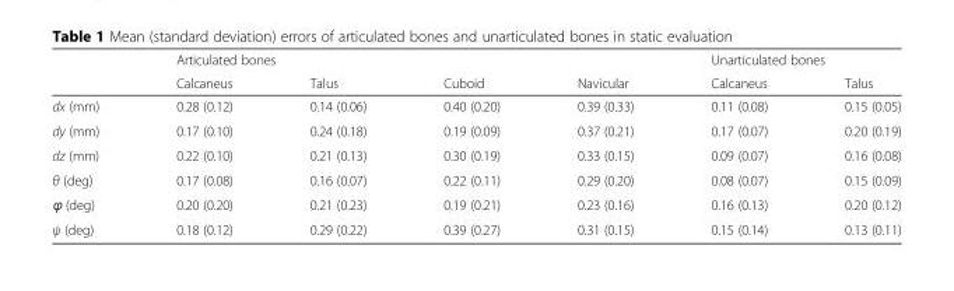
<table><thead><tr><td rowspan="2"></td><td colspan="4">Articulated bones</td><td colspan="2">Unarticulated bones</td></tr><tr><td>Calcaneus</td><td>Talus</td><td>Cuboid</td><td>Navicular</td><td>Calcaneus</td><td>Talus</td></tr></thead><tbody><tr><td>dx (mm)</td><td>0.28 (0.12)</td><td>0.14 (0.06)</td><td>0.40 (0.20)</td><td>0.39 (0.33)</td><td>0.11 (0.08)</td><td>0.15 (0.05)</td></tr><tr><td>dy (mm)</td><td>0.17 (0.10)</td><td>0.24 (0.18)</td><td>0.19 (0.09)</td><td>0.37 (0.21)</td><td>0.17 (0.07)</td><td>0.20 (0.19)</td></tr><tr><td>dz (mm)</td><td>0.22 (0.10)</td><td>0.21 (0.13)</td><td>0.30 (0.19)</td><td>0.33 (0.15)</td><td>0.09 (0.07)</td><td>0.16 (0.08)</td></tr><tr><td>θ (deg)</td><td>0.17 (0.08)</td><td>0.16 (0.07)</td><td>0.22 (0.11)</td><td>0.29 (0.20)</td><td>0.08 (0.07)</td><td>0.15 (0.09)</td></tr><tr><td>ϕ (deg)</td><td>0.20 (0.20)</td><td>0.21 (0.23)</td><td>0.19 (0.21)</td><td>0.23 (0.16)</td><td>0.16 (0.13)</td><td>0.20 (0.12)</td></tr><tr><td>ψ (deg)</td><td>0.18 (0.12)</td><td>0.29 (0.22)</td><td>0.39 (0.27)</td><td>0.31 (0.15)</td><td>0.15 (0.14)</td><td>0.13 (0.11)</td></tr></tbody></table>